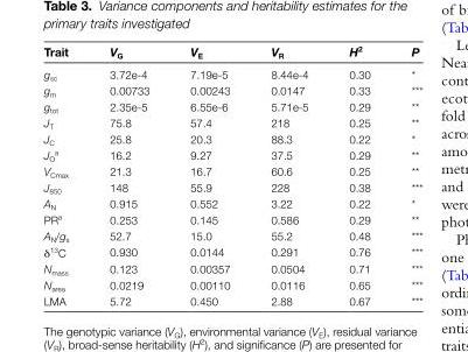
<table><thead><tr><td>Trait</td><td>V<sub>G</sub></td><td>V<sub>E</sub></td><td>V<sub>R</sub></td><td>H<sup>2</sup></td><td>P</td></tr></thead><tbody><tr><td>g<sub>sc</sub></td><td>3.72e-4</td><td>7.19e-5</td><td>8.44e-4</td><td>0.30</td><td>*</td></tr><tr><td>g<sub>m</sub></td><td>0.00733</td><td>0.00243</td><td>0.0147</td><td>0.33</td><td>***</td></tr><tr><td>g<sub>tot</sub></td><td>2.35e-5</td><td>6.55e-6</td><td>5.71e-5</td><td>0.29</td><td>**</td></tr><tr><td>J<sub>T</sub></td><td>75.8</td><td>57.4</td><td>218</td><td>0.25</td><td>**</td></tr><tr><td>J<sub>C</sub></td><td>25.8</td><td>20.3</td><td>88.3</td><td>0.22</td><td>*</td></tr><tr><td>J<sub>O</sub> <sup>a</sup></td><td>16.2</td><td>9.27</td><td>37.5</td><td>0.29</td><td>**</td></tr><tr><td>V<sub>Cmax</sub></td><td>21.3</td><td>16.7</td><td>60.6</td><td>0.25</td><td>**</td></tr><tr><td>J<sub>850</sub></td><td>148</td><td>55.9</td><td>228</td><td>0.38</td><td>***</td></tr><tr><td>A<sub>N</sub></td><td>0.915</td><td>0.552</td><td>3.22</td><td>0.22</td><td>*</td></tr><tr><td>PR<sup>a</sup></td><td>0.253</td><td>0.145</td><td>0.586</td><td>0.29</td><td>**</td></tr><tr><td>A<sub>N</sub>/g<sub>s</sub></td><td>52.7</td><td>15.0</td><td>55.2</td><td>0.48</td><td>***</td></tr><tr><td>δ<sup>13</sup>C</td><td>0.930</td><td>0.0144</td><td>0.291</td><td>0.76</td><td>***</td></tr><tr><td>N<sub>mass</sub></td><td>0.123</td><td>0.00357</td><td>0.0504</td><td>0.71</td><td>***</td></tr><tr><td>N<sub>area</sub></td><td>0.0219</td><td>0.00110</td><td>0.0116</td><td>0.65</td><td>***</td></tr><tr><td>LMA</td><td>5.72</td><td>0.450</td><td>2.88</td><td>0.67</td><td>***</td></tr></tbody></table>